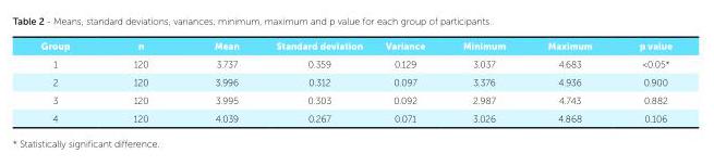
<table><tbody><tr><td>Group</td><td>n</td><td>Mean</td><td>Standard deviation</td><td>Variance</td><td>Minimum</td><td>Maximum</td><td>p value</td></tr><tr><td>1</td><td>120</td><td>3.737</td><td>0.359</td><td>0.129</td><td>3.037</td><td>4.683</td><td>&lt;0.05*</td></tr><tr><td>2</td><td>120</td><td>3.996</td><td>0.312</td><td>0.097</td><td>3.376</td><td>4.936</td><td>0.900</td></tr><tr><td>3</td><td>120</td><td>3.995</td><td>0.303</td><td>0.092</td><td>2.987</td><td>4.743</td><td>0.882</td></tr><tr><td>4</td><td>120</td><td>4.039</td><td>0.267</td><td>0.071</td><td>3.026</td><td>4.868</td><td>0.106</td></tr></tbody></table>